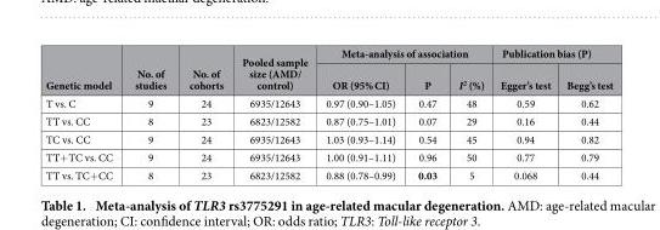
<table><thead><tr><td rowspan="2">Genetic model</td><td rowspan="2">No. of studies</td><td rowspan="2">No. of cohorts</td><td rowspan="2">Pooled sample size (AMD/ control)</td><td colspan="3">Meta-analysis of association</td><td colspan="2">Publication bias (P)</td></tr><tr><td>OR (95% CI)</td><td>P</td><td>I<sup>2</sup> (%)</td><td>Egger’s test</td><td>Begg’s test</td></tr></thead><tbody><tr><td>T vs. C</td><td>9</td><td>24</td><td>6935/12643</td><td>0.97 (0.90–1.05)</td><td>0.47</td><td>48</td><td>0.59</td><td>0.62</td></tr><tr><td>TT vs. CC</td><td>8</td><td>23</td><td>6823/12582</td><td>0.87 (0.75–1.01)</td><td>0.07</td><td>29</td><td>0.16</td><td>0.44</td></tr><tr><td>TC vs. CC</td><td>9</td><td>24</td><td>6935/12643</td><td>1.03 (0.93–1.14)</td><td>0.54</td><td>45</td><td>0.94</td><td>0.82</td></tr><tr><td>TT+ TC vs. CC</td><td>9</td><td>24</td><td>6935/12643</td><td>1.00 (0.91–1.11)</td><td>0.96</td><td>50</td><td>0.77</td><td>0.79</td></tr><tr><td>TT vs. TC+ CC</td><td>8</td><td>23</td><td>6823/12582</td><td>0.88 (0.78–0.99)</td><td>0.03</td><td>5</td><td>0.068</td><td>0.44</td></tr></tbody></table>